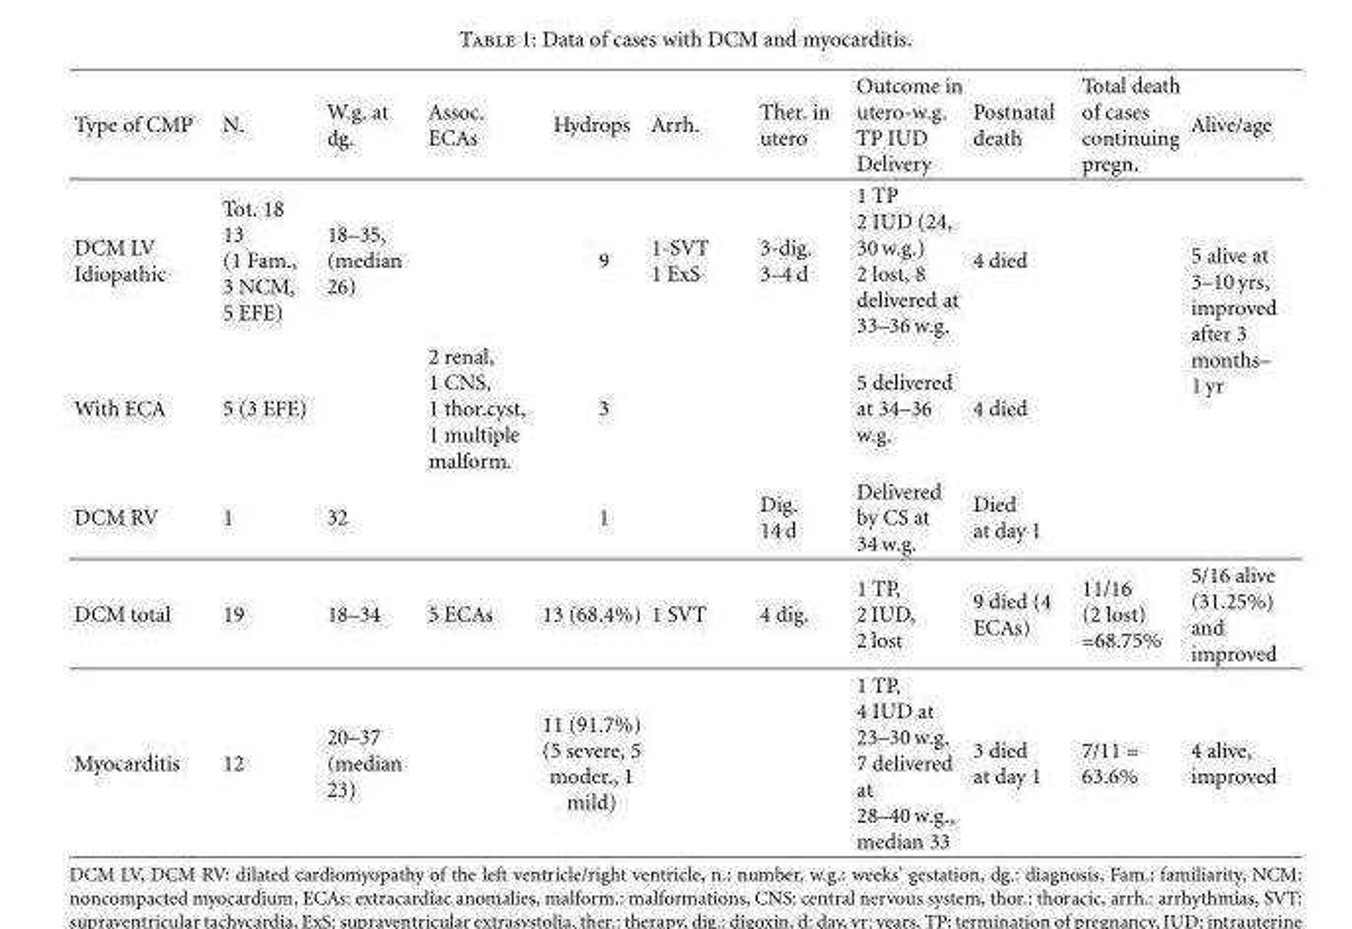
<table><thead><tr><td>Type of CMP</td><td>N.</td><td>W.g. at dg.</td><td>Assoc. ECAs</td><td>Hydrops</td><td>Arrh.</td><td>Ther. in utero</td><td>Outcome in utero-w.g. TP IUD Delivery</td><td>Postnatal death</td><td>Total death of cases continuing pregn.</td><td>Alive/age</td></tr></thead><tbody><tr><td>DCM LV Idiopathic</td><td>Tot. 18 13 (1 Fam., 3 NCM, 5 EFE)</td><td>18–35, (median 26)</td><td></td><td>9</td><td>1-SVT 1 ExS</td><td>3-dig. 3–4 d</td><td>1 TP 2 IUD (24, 30 w.g.) 2 lost, 8 delivered at 33–36 w.g.</td><td>4 died</td><td></td><td rowspan="3">5 alive at 3–10 yrs, improved after 3 months– 1 yr</td></tr><tr><td>With ECA</td><td>5 (3 EFE)</td><td></td><td>2 renal, 1 CNS, 1 thor.cyst, 1 multiple malform.</td><td>3</td><td></td><td></td><td>5 delivered at 34–36 w.g.</td><td>4 died</td><td></td></tr><tr><td>DCM RV</td><td>1</td><td>32</td><td></td><td>1</td><td></td><td>Dig. 14 d</td><td>Delivered by CS at 34 w.g.</td><td>Died at day 1</td><td></td></tr><tr><td>DCM total</td><td>19</td><td>18–34</td><td>5 ECAs</td><td>13 (68.4%)</td><td>1 SVT</td><td>4 dig.</td><td>1 TP, 2 IUD, 2 lost</td><td>9 died (4 ECAs)</td><td>11/16 (2 lost) =68.75%</td><td>5/16 alive (31.25%) and improved</td></tr><tr><td>Myocarditis</td><td>12</td><td>20–37 (median 23)</td><td></td><td>11 (91.7%) (5 severe, 5 moder., 1 mild)</td><td></td><td></td><td>1 TP, 4 IUD at 23–30 w.g. 7 delivered at 28–40 w.g., median 33</td><td>3 died at day 1</td><td>7/11 = 63.6%</td><td>4 alive, improved</td></tr></tbody></table>